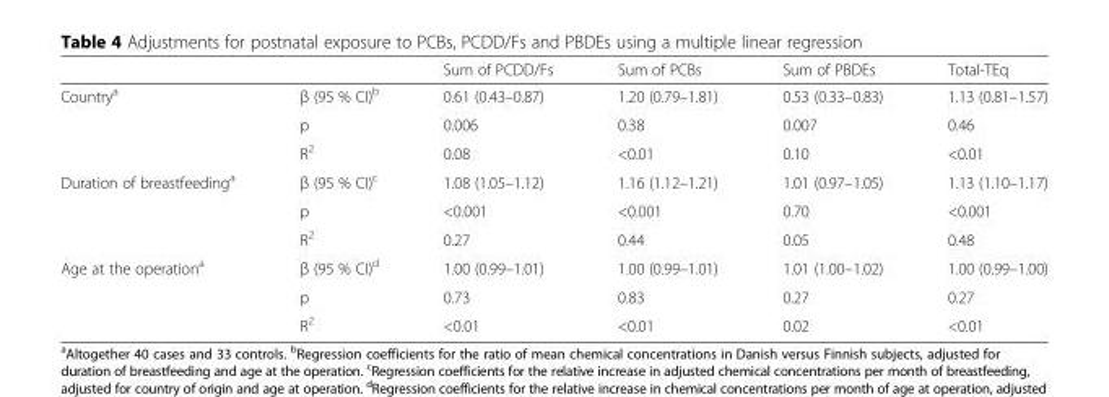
<table><thead><tr><td></td><td></td><td>Sum of PCDD/Fs</td><td>Sum of PCBs</td><td>Sum of PBDEs</td><td>Total-TEq</td></tr></thead><tbody><tr><td rowspan="3">Country<sup>a</sup></td><td>β (95 % CI)<sup>b</sup></td><td>0.61 (0.43–0.87)</td><td>1.20 (0.79–1.81)</td><td>0.53 (0.33–0.83)</td><td>1.13 (0.81–1.57)</td></tr><tr><td>p</td><td>0.006</td><td>0.38</td><td>0.007</td><td>0.46</td></tr><tr><td>R<sup>2</sup></td><td>0.08</td><td>&lt;0.01</td><td>0.10</td><td>&lt;0.01</td></tr><tr><td rowspan="3">Duration of breastfeeding<sup>a</sup></td><td>β (95 % CI)<sup>c</sup></td><td>1.08 (1.05–1.12)</td><td>1.16 (1.12–1.21)</td><td>1.01 (0.97–1.05)</td><td>1.13 (1.10–1.17)</td></tr><tr><td>p</td><td>&lt;0.001</td><td>&lt;0.001</td><td>0.70</td><td>&lt;0.001</td></tr><tr><td>R<sup>2</sup></td><td>0.27</td><td>0.44</td><td>0.05</td><td>0.48</td></tr><tr><td rowspan="3">Age at the operation<sup>a</sup></td><td>β (95 % CI)<sup>d</sup></td><td>1.00 (0.99–1.01)</td><td>1.00 (0.99–1.01)</td><td>1.01 (1.00–1.02)</td><td>1.00 (0.99–1.00)</td></tr><tr><td>p</td><td>0.73</td><td>0.83</td><td>0.27</td><td>0.27</td></tr><tr><td>R<sup>2</sup></td><td>&lt;0.01</td><td>&lt;0.01</td><td>0.02</td><td>&lt;0.01</td></tr></tbody></table>